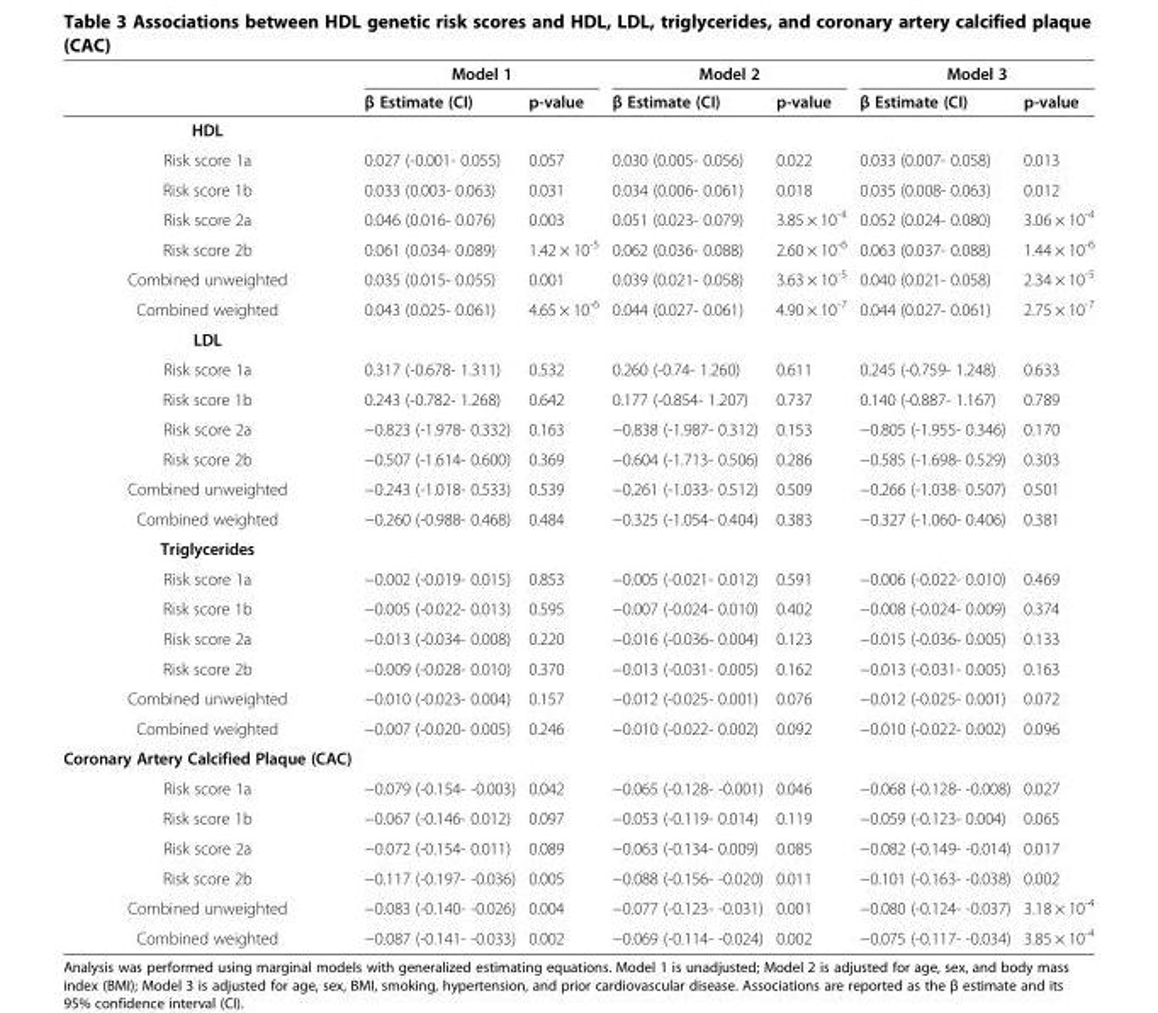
<table><thead><tr><td rowspan="2"></td><td colspan="2">Model 1</td><td colspan="2">Model 2</td><td colspan="2">Model 3</td></tr><tr><td>β Estimate (CI)</td><td>p-value</td><td>β Estimate (CI)</td><td>p-value</td><td>β Estimate (CI)</td><td>p-value</td></tr></thead><tbody><tr><td colspan="7">HDL</td></tr><tr><td>Risk score 1a</td><td>0.027 (-0.001- 0.055)</td><td>0.057</td><td>0.030 (0.005- 0.056)</td><td>0.022</td><td>0.033 (0.007- 0.058)</td><td>0.013</td></tr><tr><td>Risk score 1b</td><td>0.033 (0.003- 0.063)</td><td>0.031</td><td>0.034 (0.006- 0.061)</td><td>0.018</td><td>0.035 (0.008- 0.063)</td><td>0.012</td></tr><tr><td>Risk score 2a</td><td>0.046 (0.016- 0.076)</td><td>0.003</td><td>0.051 (0.023- 0.079)</td><td>3.85 × 10<sup>-4</sup></td><td>0.052 (0.024- 0.080)</td><td>3.06 × 10<sup>-4</sup></td></tr><tr><td>Risk score 2b</td><td>0.061 (0.034- 0.089)</td><td>1.42 × 10<sup>-5</sup></td><td>0.062 (0.036- 0.088)</td><td>2.60 × 10<sup>-6</sup></td><td>0.063 (0.037- 0.088)</td><td>1.44 × 10<sup>-6</sup></td></tr><tr><td>Combined unweighted</td><td>0.035 (0.015- 0.055)</td><td>0.001</td><td>0.039 (0.021- 0.058)</td><td>3.63 × 10<sup>-5</sup></td><td>0.040 (0.021- 0.058)</td><td>2.34 × 10<sup>-5</sup></td></tr><tr><td>Combined weighted</td><td>0.043 (0.025- 0.061)</td><td>4.65 × 10<sup>-6</sup></td><td>0.044 (0.027- 0.061)</td><td>4.90 × 10<sup>-7</sup></td><td>0.044 (0.027- 0.061)</td><td>2.75 × 10<sup>-7</sup></td></tr><tr><td colspan="7">LDL</td></tr><tr><td>Risk score 1a</td><td>0.317 (-0.678- 1.311)</td><td>0.532</td><td>0.260 (-0.74- 1.260)</td><td>0.611</td><td>0.245 (-0.759- 1.248)</td><td>0.633</td></tr><tr><td>Risk score 1b</td><td>0.243 (-0.782- 1.268)</td><td>0.642</td><td>0.177 (-0.854- 1.207)</td><td>0.737</td><td>0.140 (-0.887- 1.167)</td><td>0.789</td></tr><tr><td>Risk score 2a</td><td>−0.823 (-1.978- 0.332)</td><td>0.163</td><td>−0.838 (-1.987- 0.312)</td><td>0.153</td><td>−0.805 (-1.955- 0.346)</td><td>0.170</td></tr><tr><td>Risk score 2b</td><td>−0.507 (-1.614- 0.600)</td><td>0.369</td><td>−0.604 (-1.713- 0.506)</td><td>0.286</td><td>−0.585 (-1.698- 0.529)</td><td>0.303</td></tr><tr><td>Combined unweighted</td><td>−0.243 (-1.018- 0.533)</td><td>0.539</td><td>−0.261 (-1.033- 0.512)</td><td>0.509</td><td>−0.266 (-1.038- 0.507)</td><td>0.501</td></tr><tr><td>Combined weighted</td><td>−0.260 (-0.988- 0.468)</td><td>0.484</td><td>−0.325 (-1.054- 0.404)</td><td>0.383</td><td>−0.327 (-1.060- 0.406)</td><td>0.381</td></tr><tr><td colspan="7">Triglycerides</td></tr><tr><td>Risk score 1a</td><td>−0.002 (-0.019- 0.015)</td><td>0.853</td><td>−0.005 (-0.021- 0.012)</td><td>0.591</td><td>−0.006 (-0.022- 0.010)</td><td>0.469</td></tr><tr><td>Risk score 1b</td><td>−0.005 (-0.022- 0.013)</td><td>0.595</td><td>−0.007 (-0.024- 0.010)</td><td>0.402</td><td>−0.008 (-0.024- 0.009)</td><td>0.374</td></tr><tr><td>Risk score 2a</td><td>−0.013 (-0.034- 0.008)</td><td>0.220</td><td>−0.016 (-0.036- 0.004)</td><td>0.123</td><td>−0.015 (-0.036- 0.005)</td><td>0.133</td></tr><tr><td>Risk score 2b</td><td>−0.009 (-0.028- 0.010)</td><td>0.370</td><td>−0.013 (-0.031- 0.005)</td><td>0.162</td><td>−0.013 (-0.031- 0.005)</td><td>0.163</td></tr><tr><td>Combined unweighted</td><td>−0.010 (-0.023- 0.004)</td><td>0.157</td><td>−0.012 (-0.025- 0.001)</td><td>0.076</td><td>−0.012 (-0.025- 0.001)</td><td>0.072</td></tr><tr><td>Combined weighted</td><td>−0.007 (-0.020- 0.005)</td><td>0.246</td><td>−0.010 (-0.022- 0.002)</td><td>0.092</td><td>−0.010 (-0.022- 0.002)</td><td>0.096</td></tr><tr><td colspan="7">Coronary Artery Calcified Plaque (CAC)</td></tr><tr><td>Risk score 1a</td><td>−0.079 (-0.154- -0.003)</td><td>0.042</td><td>−0.065 (-0.128- -0.001)</td><td>0.046</td><td>−0.068 (-0.128- -0.008)</td><td>0.027</td></tr><tr><td>Risk score 1b</td><td>−0.067 (-0.146- 0.012)</td><td>0.097</td><td>−0.053 (-0.119- 0.014)</td><td>0.119</td><td>−0.059 (-0.123- 0.004)</td><td>0.065</td></tr><tr><td>Risk score 2a</td><td>−0.072 (-0.154- 0.011)</td><td>0.089</td><td>−0.063 (-0.134- 0.009)</td><td>0.085</td><td>−0.082 (-0.149- -0.014)</td><td>0.017</td></tr><tr><td>Risk score 2b</td><td>−0.117 (-0.197- -0.036)</td><td>0.005</td><td>−0.088 (-0.156- -0.020)</td><td>0.011</td><td>−0.101 (-0.163- -0.038)</td><td>0.002</td></tr><tr><td>Combined unweighted</td><td>−0.083 (-0.140- -0.026)</td><td>0.004</td><td>−0.077 (-0.123- -0.031)</td><td>0.001</td><td>−0.080 (-0.124- -0.037)</td><td>3.18 × 10<sup>-4</sup></td></tr><tr><td>Combined weighted</td><td>−0.087 (-0.141- -0.033)</td><td>0.002</td><td>−0.069 (-0.114- -0.024)</td><td>0.002</td><td>−0.075 (-0.117- -0.034)</td><td>3.85 × 10<sup>-4</sup></td></tr></tbody></table>